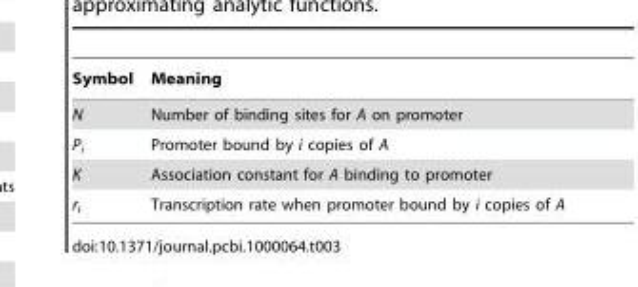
<table><thead><tr><td>Symbol</td><td>Meaning</td></tr></thead><tbody><tr><td>N</td><td>Number of binding sites for A on promoter</td></tr><tr><td>P<sub>i</sub></td><td>Promoter bound by i copies of A</td></tr><tr><td>K</td><td>Association constant for A binding to promoter</td></tr><tr><td>r<sub>i</sub></td><td>Transcription rate when promoter bound by i copies of A</td></tr></tbody></table>